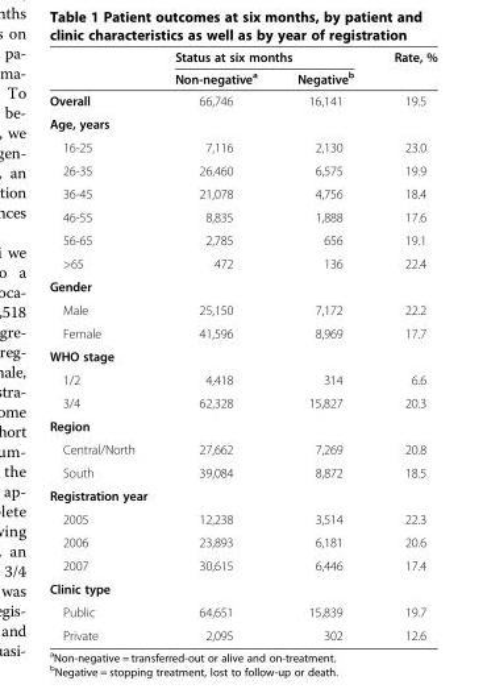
<table><thead><tr><td rowspan="2"></td><td colspan="2">Status at six months</td><td rowspan="2">Rate, %</td></tr><tr><td>Non-negative<sup>a</sup></td><td>Negative<sup>b</sup></td></tr></thead><tbody><tr><td>Overall</td><td>66,746</td><td>16,141</td><td>19.5</td></tr><tr><td colspan="4">Age, years</td></tr><tr><td>16-25</td><td>7,116</td><td>2,130</td><td>23.0</td></tr><tr><td>26-35</td><td>26,460</td><td>6,575</td><td>19.9</td></tr><tr><td>36-45</td><td>21,078</td><td>4,756</td><td>18.4</td></tr><tr><td>46-55</td><td>8,835</td><td>1,888</td><td>17.6</td></tr><tr><td>56-65</td><td>2,785</td><td>656</td><td>19.1</td></tr><tr><td>&gt;65</td><td>472</td><td>136</td><td>22.4</td></tr><tr><td colspan="4">Gender</td></tr><tr><td>Male</td><td>25,150</td><td>7,172</td><td>22.2</td></tr><tr><td>Female</td><td>41,596</td><td>8,969</td><td>17.7</td></tr><tr><td colspan="4">WHO stage</td></tr><tr><td>1/2</td><td>4,418</td><td>314</td><td>6.6</td></tr><tr><td>3/4</td><td>62,328</td><td>15,827</td><td>20.3</td></tr><tr><td colspan="4">Region</td></tr><tr><td>Central/North</td><td>27,662</td><td>7,269</td><td>20.8</td></tr><tr><td>South</td><td>39,084</td><td>8,872</td><td>18.5</td></tr><tr><td colspan="4">Registration year</td></tr><tr><td>2005</td><td>12,238</td><td>3,514</td><td>22.3</td></tr><tr><td>2006</td><td>23,893</td><td>6,181</td><td>20.6</td></tr><tr><td>2007</td><td>30,615</td><td>6,446</td><td>17.4</td></tr><tr><td colspan="4">Clinic type</td></tr><tr><td>Public</td><td>64,651</td><td>15,839</td><td>19.7</td></tr><tr><td>Private</td><td>2,095</td><td>302</td><td>12.6</td></tr></tbody></table>